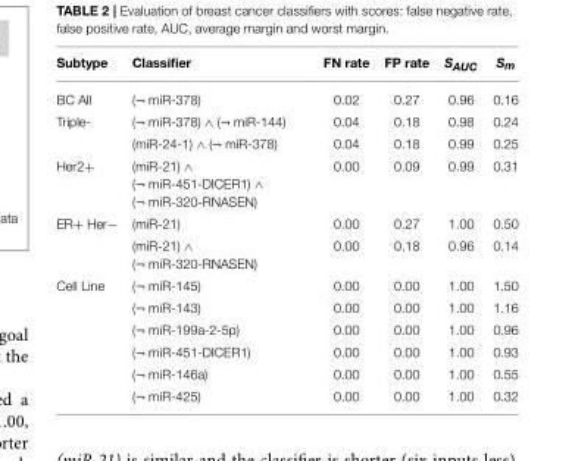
<table><thead><tr><td>Subtype</td><td>Classifier</td><td>FN rate</td><td>FP rate</td><td>S<sub>AUC</sub></td><td>S<sub>m</sub></td></tr></thead><tbody><tr><td>BC All</td><td>(¬ miR-378)</td><td>0.02</td><td>0.27</td><td>0.96</td><td>0.16</td></tr><tr><td rowspan="2">Triple-</td><td>(¬ miR-378) ∧ (¬ miR-144)</td><td>0.04</td><td>0.18</td><td>0.98</td><td>0.24</td></tr><tr><td>(miR-24-1) ∧ (¬ miR-378)</td><td>0.04</td><td>0.18</td><td>0.99</td><td>0.25</td></tr><tr><td>Her2+</td><td>(miR-21) ∧ (¬ miR-451-DICER1) ∧ (¬ miR-320-RNASEN)</td><td>0.00</td><td>0.09</td><td>0.99</td><td>0.31</td></tr><tr><td rowspan="2">ER+ Her−</td><td>(miR-21)</td><td>0.00</td><td>0.27</td><td>1.00</td><td>0.50</td></tr><tr><td>(miR-21) ∧ (¬ miR-320-RNASEN)</td><td>0.00</td><td>0.18</td><td>0.96</td><td>0.14</td></tr><tr><td rowspan="6">Cell Line</td><td>(¬ miR-145)</td><td>0.00</td><td>0.00</td><td>1.00</td><td>1.50</td></tr><tr><td>(¬ miR-143)</td><td>0.00</td><td>0.00</td><td>1.00</td><td>1.16</td></tr><tr><td>(¬ miR-199a-2-5p)</td><td>0.00</td><td>0.00</td><td>1.00</td><td>0.96</td></tr><tr><td>(¬ miR-451-DICER1)</td><td>0.00</td><td>0.00</td><td>1.00</td><td>0.93</td></tr><tr><td>(¬ miR-146a)</td><td>0.00</td><td>0.00</td><td>1.00</td><td>0.55</td></tr><tr><td>(¬ miR-425)</td><td>0.00</td><td>0.00</td><td>1.00</td><td>0.32</td></tr></tbody></table>